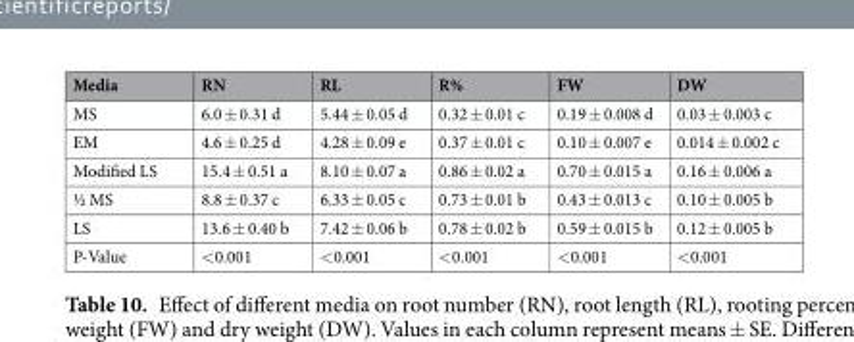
<table><thead><tr><td>Media</td><td>RN</td><td>RL</td><td>R%</td><td>FW</td><td>DW</td></tr></thead><tbody><tr><td>MS</td><td>6.0 ± 0.31 d</td><td>5.44 ± 0.05 d</td><td>0.32 ± 0.01 c</td><td>0.19 ± 0.008 d</td><td>0.03 ± 0.003 c</td></tr><tr><td>EM</td><td>4.6 ± 0.25 d</td><td>4.28 ± 0.09 e</td><td>0.37 ± 0.01 c</td><td>0.10 ± 0.007 e</td><td>0.014 ± 0.002 c</td></tr><tr><td>Modified LS</td><td>15.4 ± 0.51 a</td><td>8.10 ± 0.07 a</td><td>0.86 ± 0.02 a</td><td>0.70 ± 0.015 a</td><td>0.16 ± 0.006 a</td></tr><tr><td>½ MS</td><td>8.8 ± 0.37 c</td><td>6.33 ± 0.05 c</td><td>0.73 ± 0.01 b</td><td>0.43 ± 0.013 c</td><td>0.10 ± 0.005 b</td></tr><tr><td>LS</td><td>13.6 ± 0.40 b</td><td>7.42 ± 0.06 b</td><td>0.78 ± 0.02 b</td><td>0.59 ± 0.015 b</td><td>0.12 ± 0.005 b</td></tr><tr><td>P-Value</td><td>&lt;0.001</td><td>&lt;0.001</td><td>&lt;0.001</td><td>&lt;0.001</td><td>&lt;0.001</td></tr></tbody></table>